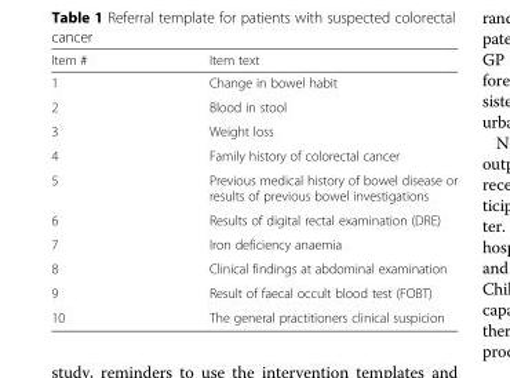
<table><thead><tr><td>Item #</td><td>Item text</td></tr></thead><tbody><tr><td>1</td><td>Change in bowel habit</td></tr><tr><td>2</td><td>Blood in stool</td></tr><tr><td>3</td><td>Weight loss</td></tr><tr><td>4</td><td>Family history of colorectal cancer</td></tr><tr><td>5</td><td>Previous medical history of bowel disease or results of previous bowel investigations</td></tr><tr><td>6</td><td>Results of digital rectal examination (DRE)</td></tr><tr><td>7</td><td>Iron deficiency anaemia</td></tr><tr><td>8</td><td>Clinical findings at abdominal examination</td></tr><tr><td>9</td><td>Result of faecal occult blood test (FOBT)</td></tr><tr><td>10</td><td>The general practitioners clinical suspicion</td></tr></tbody></table>